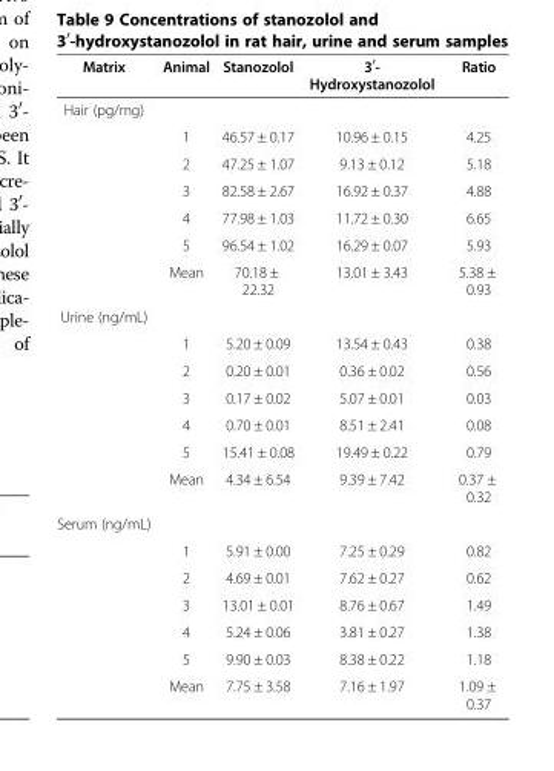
<table><thead><tr><td>Matrix</td><td>Animal</td><td>Stanozolol</td><td>3<sup>′</sup>- Hydroxystanozolol</td><td>Ratio</td></tr></thead><tbody><tr><td colspan="5">Hair (pg/mg)</td></tr><tr><td></td><td>1</td><td>46.57 ± 0.17</td><td>10.96 ± 0.15</td><td>4.25</td></tr><tr><td></td><td>2</td><td>47.25 ± 1.07</td><td>9.13 ± 0.12</td><td>5.18</td></tr><tr><td></td><td>3</td><td>82.58 ± 2.67</td><td>16.92 ± 0.37</td><td>4.88</td></tr><tr><td></td><td>4</td><td>77.98 ± 1.03</td><td>11.72 ± 0.30</td><td>6.65</td></tr><tr><td></td><td>5</td><td>96.54 ± 1.02</td><td>16.29 ± 0.07</td><td>5.93</td></tr><tr><td></td><td>Mean</td><td>70.18 ± 22.32</td><td>13.01 ± 3.43</td><td>5.38 ± 0.93</td></tr><tr><td colspan="5">Urine (ng/mL)</td></tr><tr><td></td><td>1</td><td>5.20 ± 0.09</td><td>13.54 ± 0.43</td><td>0.38</td></tr><tr><td></td><td>2</td><td>0.20 ± 0.01</td><td>0.36 ± 0.02</td><td>0.56</td></tr><tr><td></td><td>3</td><td>0.17 ± 0.02</td><td>5.07 ± 0.01</td><td>0.03</td></tr><tr><td></td><td>4</td><td>0.70 ± 0.01</td><td>8.51 ± 2.41</td><td>0.08</td></tr><tr><td></td><td>5</td><td>15.41 ± 0.08</td><td>19.49 ± 0.22</td><td>0.79</td></tr><tr><td></td><td>Mean</td><td>4.34 ± 6.54</td><td>9.39 ± 7.42</td><td>0.37 ± 0.32</td></tr><tr><td colspan="5">Serum (ng/mL)</td></tr><tr><td></td><td>1</td><td>5.91 ± 0.00</td><td>7.25 ± 0.29</td><td>0.82</td></tr><tr><td></td><td>2</td><td>4.69 ± 0.01</td><td>7.62 ± 0.27</td><td>0.62</td></tr><tr><td></td><td>3</td><td>13.01 ± 0.01</td><td>8.76 ± 0.67</td><td>1.49</td></tr><tr><td></td><td>4</td><td>5.24 ± 0.06</td><td>3.81 ± 0.27</td><td>1.38</td></tr><tr><td></td><td>5</td><td>9.90 ± 0.03</td><td>8.38 ± 0.22</td><td>1.18</td></tr><tr><td></td><td>Mean</td><td>7.75 ± 3.58</td><td>7.16 ± 1.97</td><td>1.09 ± 0.37</td></tr></tbody></table>